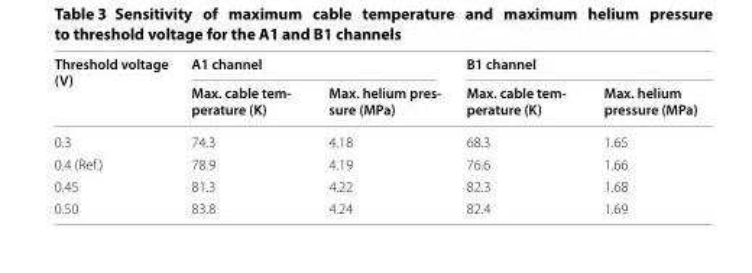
<table><thead><tr><td rowspan="2">Threshold voltage (V)</td><td colspan="2">A1 channel</td><td colspan="2">B1 channel</td></tr><tr><td>Max. cable tem- perature (K)</td><td>Max. helium pres- sure (MPa)</td><td>Max. cable tem- perature (K)</td><td>Max. helium pressure (MPa)</td></tr></thead><tbody><tr><td>0.3</td><td>74.3</td><td>4.18</td><td>68.3</td><td>1.65</td></tr><tr><td>0.4 (Ref.)</td><td>78.9</td><td>4.19</td><td>76.6</td><td>1.66</td></tr><tr><td>0.45</td><td>81.3</td><td>4.22</td><td>82.3</td><td>1.68</td></tr><tr><td>0.50</td><td>83.8</td><td>4.24</td><td>82.4</td><td>1.69</td></tr></tbody></table>